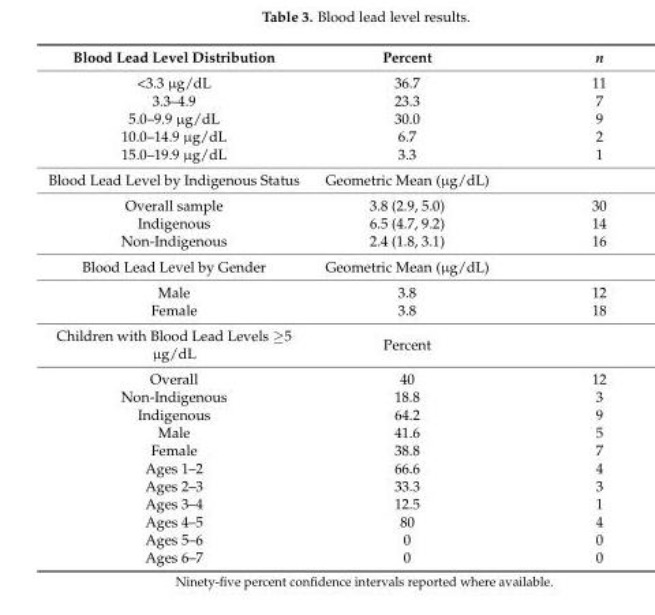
<table><thead><tr><td>Blood Lead Level Distribution</td><td>Percent</td><td>n</td></tr></thead><tbody><tr><td>&lt;3.3 µg/dL</td><td>36.7</td><td>11</td></tr><tr><td>3.3–4.9</td><td>23.3</td><td>7</td></tr><tr><td>5.0–9.9 µg/dL</td><td>30.0</td><td>9</td></tr><tr><td>10.0–14.9 µg/dL</td><td>6.7</td><td>2</td></tr><tr><td>15.0–19.9 µg/dL</td><td>3.3</td><td>1</td></tr><tr><td>Blood Lead Level by Indigenous Status</td><td>Geometric Mean (µg/dL)</td><td></td></tr><tr><td>Overall sample</td><td>3.8 (2.9, 5.0)</td><td>30</td></tr><tr><td>Indigenous</td><td>6.5 (4.7, 9.2)</td><td>14</td></tr><tr><td>Non-Indigenous</td><td>2.4 (1.8, 3.1)</td><td>16</td></tr><tr><td>Blood Lead Level by Gender</td><td>Geometric Mean (µg/dL)</td><td></td></tr><tr><td>Male</td><td>3.8</td><td>12</td></tr><tr><td>Female</td><td>3.8</td><td>18</td></tr><tr><td>Children with Blood Lead Levels ≥5 µg/dL</td><td>Percent</td><td></td></tr><tr><td>Overall</td><td>40</td><td>12</td></tr><tr><td>Non-Indigenous</td><td>18.8</td><td>3</td></tr><tr><td>Indigenous</td><td>64.2</td><td>9</td></tr><tr><td>Male</td><td>41.6</td><td>5</td></tr><tr><td>Female</td><td>38.8</td><td>7</td></tr><tr><td>Ages 1–2</td><td>66.6</td><td>4</td></tr><tr><td>Ages 2–3</td><td>33.3</td><td>3</td></tr><tr><td>Ages 3–4</td><td>12.5</td><td>1</td></tr><tr><td>Ages 4–5</td><td>80</td><td>4</td></tr><tr><td>Ages 5–6</td><td>0</td><td>0</td></tr><tr><td>Ages 6–7</td><td>0</td><td>0</td></tr></tbody></table>